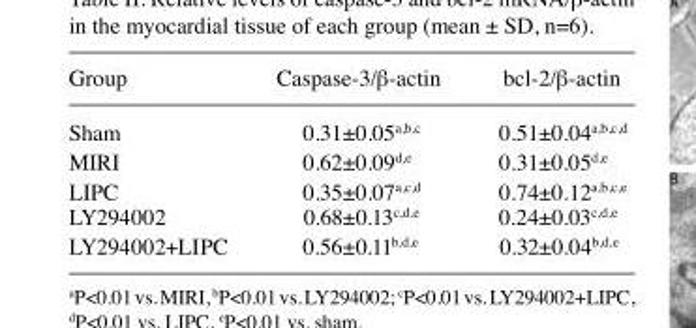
<table><thead><tr><td>Group</td><td>Caspase-3/β-actin</td><td>bcl-2/β-actin</td></tr></thead><tbody><tr><td>Sham</td><td>0.31±0.05<sup>a,b,c</sup></td><td>0.51±0.04<sup>a,b,c,d</sup></td></tr><tr><td>MIRI</td><td>0.62±0.09<sup>d,e</sup></td><td>0.31±0.05<sup>d,e</sup></td></tr><tr><td>LIPC</td><td>0.35±0.07<sup>a,c,d</sup></td><td>0.74±0.12<sup>a,b,c,e</sup></td></tr><tr><td>LY294002</td><td>0.68±0.13<sup>c,d,e</sup></td><td>0.24±0.03<sup>c,d,e</sup></td></tr><tr><td>LY294002+LIPC</td><td>0.56±0.11<sup>b,d,e</sup></td><td>0.32±0.04<sup>b,d,e</sup></td></tr></tbody></table>